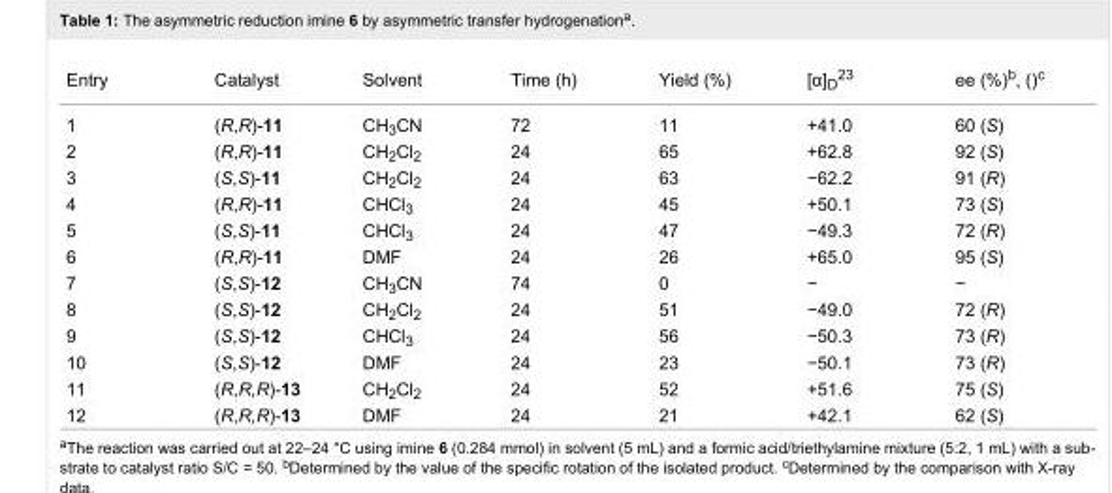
<table><tbody><tr><td>Entry</td><td>Catalyst</td><td>Solvent</td><td>Time (h)</td><td>Yield (%)</td><td>[α]<sub>D</sub><sup>23</sup></td><td>ee (%)<sup>b</sup>, ()<sup>c</sup></td></tr><tr><td>1</td><td>(R,R)-11</td><td>CH<sub>3</sub>CN</td><td>72</td><td>11</td><td>+41.0</td><td>60 (S)</td></tr><tr><td>2</td><td>(R,R)-11</td><td>CH<sub>2</sub>Cl<sub>2</sub></td><td>24</td><td>65</td><td>+62.8</td><td>92 (S)</td></tr><tr><td>3</td><td>(S,S)-11</td><td>CH<sub>2</sub>Cl<sub>2</sub></td><td>24</td><td>63</td><td>−62.2</td><td>91 (R)</td></tr><tr><td>4</td><td>(R,R)-11</td><td>CHCl<sub>3</sub></td><td>24</td><td>45</td><td>+50.1</td><td>73 (S)</td></tr><tr><td>5</td><td>(S,S)-11</td><td>CHCl<sub>3</sub></td><td>24</td><td>47</td><td>−49.3</td><td>72 (R)</td></tr><tr><td>6</td><td>(R,R)-11</td><td>DMF</td><td>24</td><td>26</td><td>+65.0</td><td>95 (S)</td></tr><tr><td>7</td><td>(S,S)-12</td><td>CH<sub>3</sub>CN</td><td>74</td><td>0</td><td>−</td><td>−</td></tr><tr><td>8</td><td>(S,S)-12</td><td>CH<sub>2</sub>Cl<sub>2</sub></td><td>24</td><td>51</td><td>−49.0</td><td>72 (R)</td></tr><tr><td>9</td><td>(S,S)-12</td><td>CHCl<sub>3</sub></td><td>24</td><td>56</td><td>−50.3</td><td>73 (R)</td></tr><tr><td>10</td><td>(S,S)-12</td><td>DMF</td><td>24</td><td>23</td><td>−50.1</td><td>73 (R)</td></tr><tr><td>11</td><td>(R,R,R)-13</td><td>CH<sub>2</sub>Cl<sub>2</sub></td><td>24</td><td>52</td><td>+51.6</td><td>75 (S)</td></tr><tr><td>12</td><td>(R,R,R)-13</td><td>DMF</td><td>24</td><td>21</td><td>+42.1</td><td>62 (S)</td></tr></tbody></table>